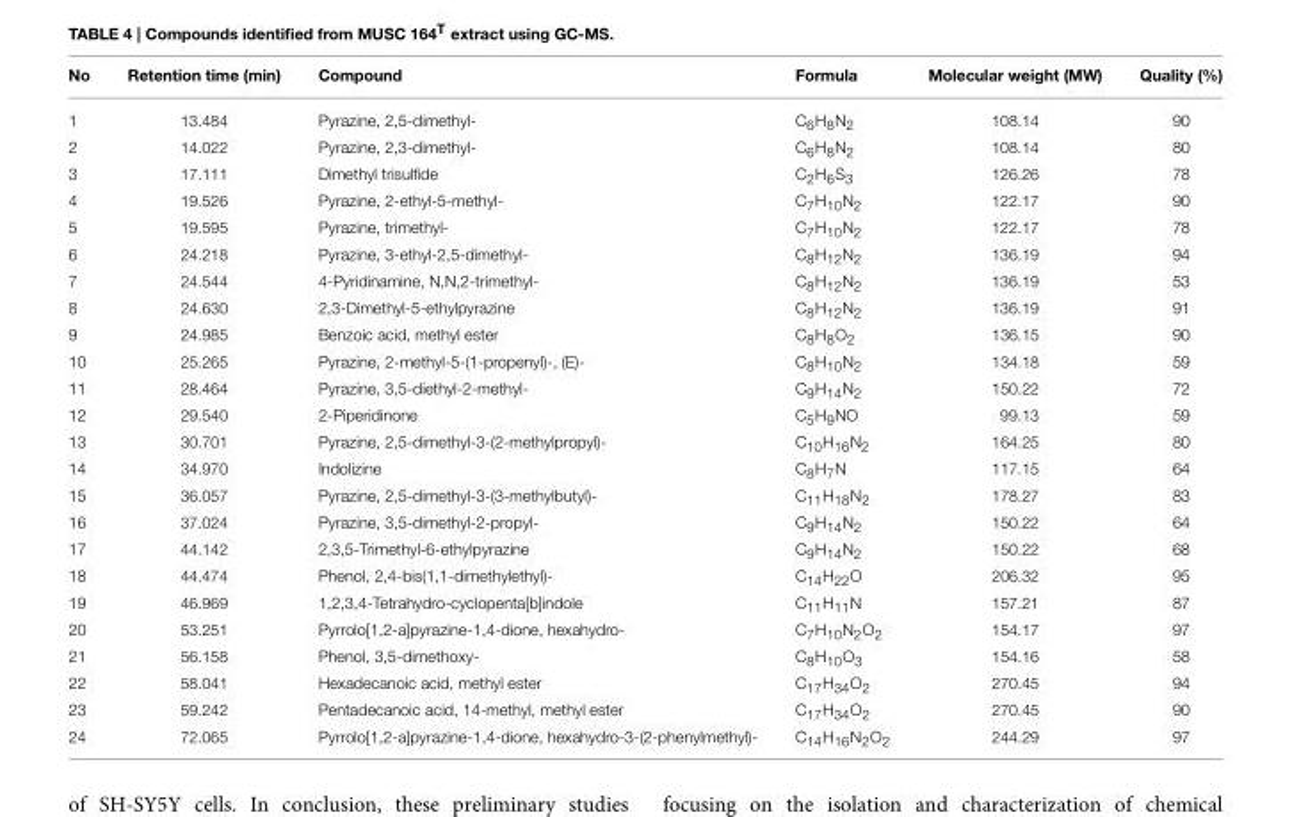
<table><thead><tr><td>No</td><td>Retention time (min)</td><td>Compound</td><td>Formula</td><td>Molecular weight (MW)</td><td>Quality (%)</td></tr></thead><tbody><tr><td>1</td><td>13.484</td><td>Pyrazine, 2,5-dimethyl-</td><td>C<sub>6</sub>H<sub>8</sub>N<sub>2</sub></td><td>108.14</td><td>90</td></tr><tr><td>2</td><td>14.022</td><td>Pyrazine, 2,3-dimethyl-</td><td>C<sub>6</sub>H<sub>8</sub>N<sub>2</sub></td><td>108.14</td><td>80</td></tr><tr><td>3</td><td>17.111</td><td>Dimethyl trisulfide</td><td>C<sub>2</sub>H<sub>6</sub>S<sub>3</sub></td><td>126.26</td><td>78</td></tr><tr><td>4</td><td>19.526</td><td>Pyrazine, 2-ethyl-5-methyl-</td><td>C<sub>7</sub>H<sub>10</sub>N<sub>2</sub></td><td>122.17</td><td>90</td></tr><tr><td>5</td><td>19.595</td><td>Pyrazine, trimethyl-</td><td>C<sub>7</sub>H<sub>10</sub>N<sub>2</sub></td><td>122.17</td><td>78</td></tr><tr><td>6</td><td>24.218</td><td>Pyrazine, 3-ethyl-2,5-dimethyl-</td><td>C<sub>8</sub>H<sub>12</sub>N<sub>2</sub></td><td>136.19</td><td>94</td></tr><tr><td>7</td><td>24.544</td><td>4-Pyridinamine, N,N,2-trimethyl-</td><td>C<sub>8</sub>H<sub>12</sub>N<sub>2</sub></td><td>136.19</td><td>53</td></tr><tr><td>8</td><td>24.630</td><td>2,3-Dimethyl-5-ethylpyrazine</td><td>C<sub>8</sub>H<sub>12</sub>N<sub>2</sub></td><td>136.19</td><td>91</td></tr><tr><td>9</td><td>24.985</td><td>Benzoic acid, methyl ester</td><td>C<sub>8</sub>H<sub>8</sub>O<sub>2</sub></td><td>136.15</td><td>90</td></tr><tr><td>10</td><td>25.265</td><td>Pyrazine, 2-methyl-5-(1-propenyl)-, (E)-</td><td>C<sub>8</sub>H<sub>10</sub>N<sub>2</sub></td><td>134.18</td><td>59</td></tr><tr><td>11</td><td>28.464</td><td>Pyrazine, 3,5-diethyl-2-methyl-</td><td>C<sub>9</sub>H<sub>14</sub>N<sub>2</sub></td><td>150.22</td><td>72</td></tr><tr><td>12</td><td>29.540</td><td>2-Piperidinone</td><td>C<sub>5</sub>H<sub>9</sub>NO</td><td>99.13</td><td>59</td></tr><tr><td>13</td><td>30.701</td><td>Pyrazine, 2,5-dimethyl-3-(2-methylpropyl)-</td><td>C<sub>10</sub>H<sub>16</sub>N<sub>2</sub></td><td>164.25</td><td>80</td></tr><tr><td>14</td><td>34.970</td><td>Indolizine</td><td>C<sub>8</sub>H<sub>7</sub>N</td><td>117.15</td><td>64</td></tr><tr><td>15</td><td>36.057</td><td>Pyrazine, 2,5-dimethyl-3-(3-methylbutyl)-</td><td>C<sub>11</sub>H<sub>18</sub>N<sub>2</sub></td><td>178.27</td><td>83</td></tr><tr><td>16</td><td>37.024</td><td>Pyrazine, 3,5-dimethyl-2-propyl-</td><td>C<sub>9</sub>H<sub>14</sub>N<sub>2</sub></td><td>150.22</td><td>64</td></tr><tr><td>17</td><td>44.142</td><td>2,3,5-Trimethyl-6-ethylpyrazine</td><td>C<sub>9</sub>H<sub>14</sub>N<sub>2</sub></td><td>150.22</td><td>68</td></tr><tr><td>18</td><td>44.474</td><td>Phenol, 2,4-bis(1,1-dimethylethyl)-</td><td>C<sub>14</sub>H<sub>22</sub>O</td><td>206.32</td><td>95</td></tr><tr><td>19</td><td>46.969</td><td>1,2,3,4-Tetrahydro-cyclopenta[b]indole</td><td>C<sub>11</sub>H<sub>11</sub>N</td><td>157.21</td><td>87</td></tr><tr><td>20</td><td>53.251</td><td>Pyrrolo[1,2-a]pyrazine-1,4-dione, hexahydro-</td><td>C<sub>7</sub>H<sub>10</sub>N<sub>2</sub>O<sub>2</sub></td><td>154.17</td><td>97</td></tr><tr><td>21</td><td>56.158</td><td>Phenol, 3,5-dimethoxy-</td><td>C<sub>8</sub>H<sub>10</sub>O<sub>3</sub></td><td>154.16</td><td>58</td></tr><tr><td>22</td><td>58.041</td><td>Hexadecanoic acid, methyl ester</td><td>C<sub>17</sub>H<sub>34</sub>O<sub>2</sub></td><td>270.45</td><td>94</td></tr><tr><td>23</td><td>59.242</td><td>Pentadecanoic acid, 14-methyl, methyl ester</td><td>C<sub>17</sub>H<sub>34</sub>O<sub>2</sub></td><td>270.45</td><td>90</td></tr><tr><td>24</td><td>72.065</td><td>Pyrrolo[1,2-a]pyrazine-1,4-dione, hexahydro-3-(2-phenylmethyl)-</td><td>C<sub>14</sub>H<sub>16</sub>N<sub>2</sub>O<sub>2</sub></td><td>244.29</td><td>97</td></tr></tbody></table>